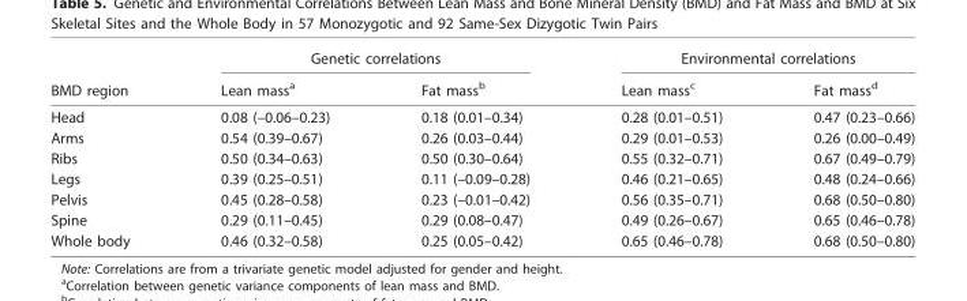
<table><thead><tr><td rowspan="2">BMD region</td><td colspan="2">Genetic correlations</td><td colspan="2">Environmental correlations</td></tr><tr><td>Lean mass<sup>a</sup></td><td>Fat mass<sup>b</sup></td><td>Lean mass<sup>c</sup></td><td>Fat mass<sup>d</sup></td></tr></thead><tbody><tr><td>Head</td><td>0.08 (–0.06–0.23)</td><td>0.18 (0.01–0.34)</td><td>0.28 (0.01–0.51)</td><td>0.47 (0.23–0.66)</td></tr><tr><td>Arms</td><td>0.54 (0.39–0.67)</td><td>0.26 (0.03–0.44)</td><td>0.29 (0.01–0.53)</td><td>0.26 (0.00–0.49)</td></tr><tr><td>Ribs</td><td>0.50 (0.34–0.63)</td><td>0.50 (0.30–0.64)</td><td>0.55 (0.32–0.71)</td><td>0.67 (0.49–0.79)</td></tr><tr><td>Legs</td><td>0.39 (0.25–0.51)</td><td>0.11 (–0.09–0.28)</td><td>0.46 (0.21–0.65)</td><td>0.48 (0.24–0.66)</td></tr><tr><td>Pelvis</td><td>0.45 (0.28–0.58)</td><td>0.23 (–0.01–0.42)</td><td>0.56 (0.35–0.71)</td><td>0.68 (0.50–0.80)</td></tr><tr><td>Spine</td><td>0.29 (0.11–0.45)</td><td>0.29 (0.08–0.47)</td><td>0.49 (0.26–0.67)</td><td>0.65 (0.46–0.78)</td></tr><tr><td>Whole body</td><td>0.46 (0.32–0.58)</td><td>0.25 (0.05–0.42)</td><td>0.65 (0.46–0.78)</td><td>0.68 (0.50–0.80)</td></tr></tbody></table>